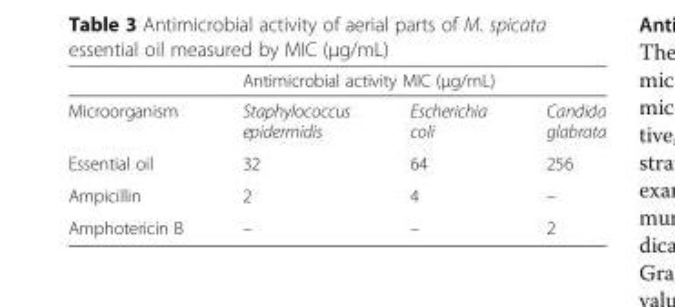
<table><thead><tr><td rowspan="2">Microorganism</td><td colspan="3">Antimicrobial activity MIC (μg/mL)</td></tr><tr><td>Staphylococcus epidermidis</td><td>Escherichia coli</td><td>Candida glabrata</td></tr></thead><tbody><tr><td>Essential oil</td><td>32</td><td>64</td><td>256</td></tr><tr><td>Ampicillin</td><td>2</td><td>4</td><td>–</td></tr><tr><td>Amphotericin B</td><td>–</td><td>–</td><td>2</td></tr></tbody></table>